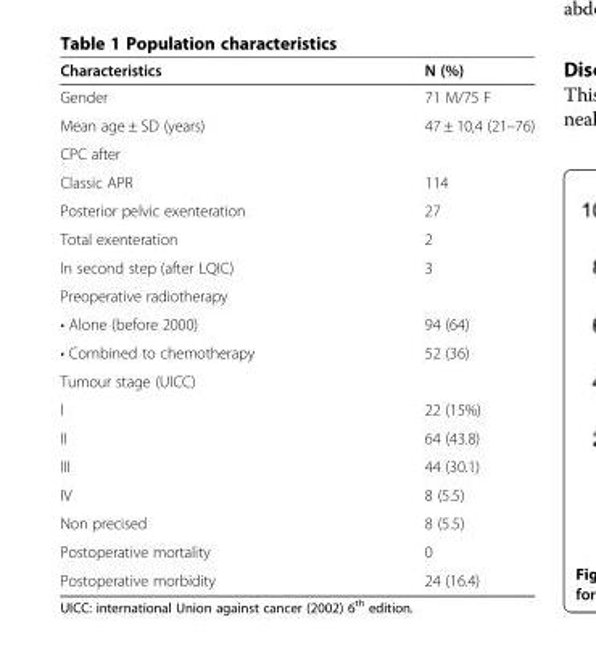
<table><thead><tr><td>Characteristics</td><td>N (%)</td></tr></thead><tbody><tr><td>Gender</td><td>71 M/75 F</td></tr><tr><td>Mean age ± SD (years)</td><td>47 ± 10,4 (21–76)</td></tr><tr><td colspan="2">CPC after</td></tr><tr><td>Classic APR</td><td>114</td></tr><tr><td>Posterior pelvic exenteration</td><td>27</td></tr><tr><td>Total exenteration</td><td>2</td></tr><tr><td>In second step (after LQIC)</td><td>3</td></tr><tr><td colspan="2">Preoperative radiotherapy</td></tr><tr><td>• Alone (before 2000)</td><td>94 (64)</td></tr><tr><td>• Combined to chemotherapy</td><td>52 (36)</td></tr><tr><td colspan="2">Tumour stage (UICC)</td></tr><tr><td>I</td><td>22 (15%)</td></tr><tr><td>II</td><td>64 (43.8)</td></tr><tr><td>III</td><td>44 (30.1)</td></tr><tr><td>IV</td><td>8 (5.5)</td></tr><tr><td>Non precised</td><td>8 (5.5)</td></tr><tr><td>Postoperative mortality</td><td>0</td></tr><tr><td>Postoperative morbidity</td><td>24 (16.4)</td></tr></tbody></table>